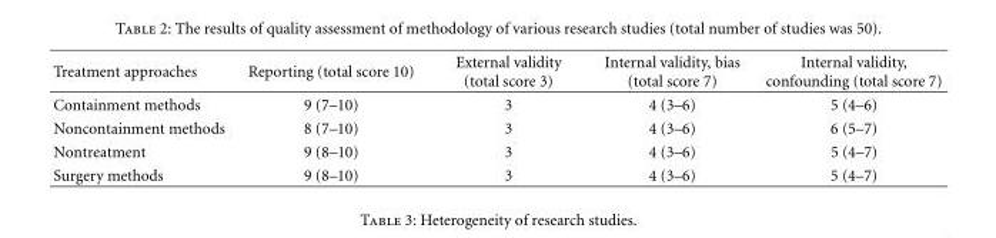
<table><thead><tr><td>Treatment approaches</td><td>Reporting (total score 10)</td><td>External validity (total score 3)</td><td>Internal validity, bias (total score 7)</td><td>Internal validity, confounding (total score 7)</td></tr></thead><tbody><tr><td>Containment methods</td><td>9 (7–10)</td><td>3</td><td>4 (3–6)</td><td>5 (4–6)</td></tr><tr><td>Noncontainment methods</td><td>8 (7–10)</td><td>3</td><td>4 (3–6)</td><td>6 (5–7)</td></tr><tr><td>Nontreatment</td><td>9 (8–10)</td><td>3</td><td>4 (3–6)</td><td>5 (4–7)</td></tr><tr><td>Surgery methods</td><td>9 (8–10)</td><td>3</td><td>4 (3–6)</td><td>5 (4–7)</td></tr></tbody></table>